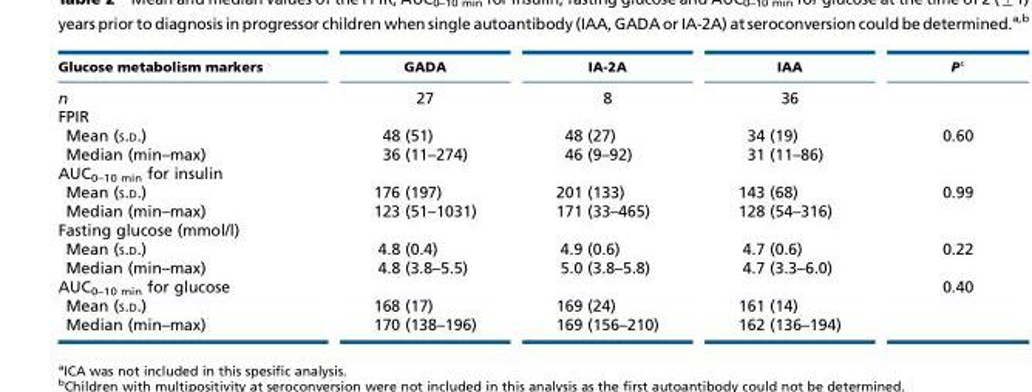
<table><thead><tr><td>Glucose metabolism markers</td><td>GADA</td><td>IA-2A</td><td>IAA</td><td>P<sup>c</sup></td></tr></thead><tbody><tr><td>n</td><td>27</td><td>8</td><td>36</td><td></td></tr><tr><td colspan="5">FPIR</td></tr><tr><td>Mean (S.D.)</td><td>48 (51)</td><td>48 (27)</td><td>34 (19)</td><td>0.60</td></tr><tr><td>Median (min–max)</td><td>36 (11–274)</td><td>46 (9–92)</td><td>31 (11–86)</td><td></td></tr><tr><td colspan="5">AUC<sub>0–10 min</sub> for insulin</td></tr><tr><td>Mean (S.D.)</td><td>176 (197)</td><td>201 (133)</td><td>143 (68)</td><td>0.99</td></tr><tr><td>Median (min–max)</td><td>123 (51–1031)</td><td>171 (33–465)</td><td>128 (54–316)</td><td></td></tr><tr><td colspan="5">Fasting glucose (mmol/l)</td></tr><tr><td>Mean (S.D.)</td><td>4.8 (0.4)</td><td>4.9 (0.6)</td><td>4.7 (0.6)</td><td>0.22</td></tr><tr><td>Median (min–max)</td><td>4.8 (3.8–5.5)</td><td>5.0 (3.8–5.8)</td><td>4.7 (3.3–6.0)</td><td></td></tr><tr><td>AUC<sub>0–10 min</sub> for glucose</td><td></td><td></td><td></td><td>0.40</td></tr><tr><td>Mean (S.D.)</td><td>168 (17)</td><td>169 (24)</td><td>161 (14)</td><td></td></tr><tr><td>Median (min–max)</td><td>170 (138–196)</td><td>169 (156–210)</td><td>162 (136–194)</td><td></td></tr></tbody></table>